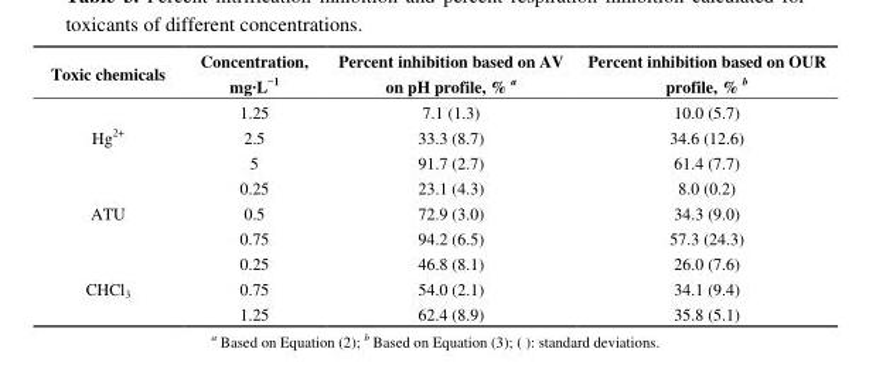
<table><thead><tr><td>Toxic chemicals</td><td>Concentration, mg·L<sup>−1</sup></td><td>Percent inhibition based on AV on pH profile, % <sup>a</sup></td><td>Percent inhibition based on OUR profile, % <sup>b</sup></td></tr></thead><tbody><tr><td rowspan="3">Hg<sup>2+</sup></td><td>1.25</td><td>7.1 (1.3)</td><td>10.0 (5.7)</td></tr><tr><td>2.5</td><td>33.3 (8.7)</td><td>34.6 (12.6)</td></tr><tr><td>5</td><td>91.7 (2.7)</td><td>61.4 (7.7)</td></tr><tr><td rowspan="3">ATU</td><td>0.25</td><td>23.1 (4.3)</td><td>8.0 (0.2)</td></tr><tr><td>0.5</td><td>72.9 (3.0)</td><td>34.3 (9.0)</td></tr><tr><td>0.75</td><td>94.2 (6.5)</td><td>57.3 (24.3)</td></tr><tr><td rowspan="3">CHCl<sub>3</sub></td><td>0.25</td><td>46.8 (8.1)</td><td>26.0 (7.6)</td></tr><tr><td>0.75</td><td>54.0 (2.1)</td><td>34.1 (9.4)</td></tr><tr><td>1.25</td><td>62.4 (8.9)</td><td>35.8 (5.1)</td></tr></tbody></table>